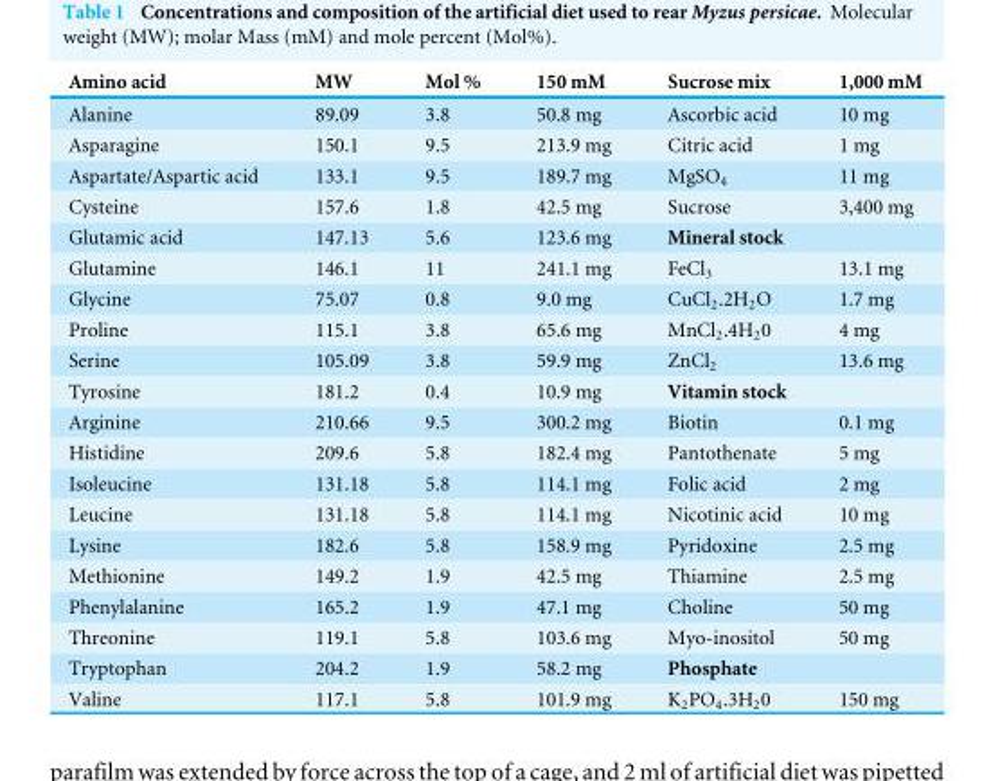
<table><thead><tr><td>Amino acid</td><td>MW</td><td>Mol %</td><td>150 mM</td><td>Sucrose mix</td><td>1,000 mM</td></tr></thead><tbody><tr><td>Alanine</td><td>89.09</td><td>3.8</td><td>50.8 mg</td><td>Ascorbic acid</td><td>10 mg</td></tr><tr><td>Asparagine</td><td>150.1</td><td>9.5</td><td>213.9 mg</td><td>Citric acid</td><td>1 mg</td></tr><tr><td>Aspartate/Aspartic acid</td><td>133.1</td><td>9.5</td><td>189.7 mg</td><td>MgSO<sub>4</sub></td><td>11 mg</td></tr><tr><td>Cysteine</td><td>157.6</td><td>1.8</td><td>42.5 mg</td><td>Sucrose</td><td>3,400 mg</td></tr><tr><td>Glutamic acid</td><td>147.13</td><td>5.6</td><td>123.6 mg</td><td>Mineral stock</td><td></td></tr><tr><td>Glutamine</td><td>146.1</td><td>11</td><td>241.1 mg</td><td>FeCl<sub>3</sub></td><td>13.1 mg</td></tr><tr><td>Glycine</td><td>75.07</td><td>0.8</td><td>9.0 mg</td><td>CuCl<sub>2</sub>.2H<sub>2</sub>O</td><td>1.7 mg</td></tr><tr><td>Proline</td><td>115.1</td><td>3.8</td><td>65.6 mg</td><td>MnCl<sub>2</sub>.4H<sub>2</sub>0</td><td>4 mg</td></tr><tr><td>Serine</td><td>105.09</td><td>3.8</td><td>59.9 mg</td><td>ZnCl<sub>2</sub></td><td>13.6 mg</td></tr><tr><td>Tyrosine</td><td>181.2</td><td>0.4</td><td>10.9 mg</td><td>Vitamin stock</td><td></td></tr><tr><td>Arginine</td><td>210.66</td><td>9.5</td><td>300.2 mg</td><td>Biotin</td><td>0.1 mg</td></tr><tr><td>Histidine</td><td>209.6</td><td>5.8</td><td>182.4 mg</td><td>Pantothenate</td><td>5 mg</td></tr><tr><td>Isoleucine</td><td>131.18</td><td>5.8</td><td>114.1 mg</td><td>Folic acid</td><td>2 mg</td></tr><tr><td>Leucine</td><td>131.18</td><td>5.8</td><td>114.1 mg</td><td>Nicotinic acid</td><td>10 mg</td></tr><tr><td>Lysine</td><td>182.6</td><td>5.8</td><td>158.9 mg</td><td>Pyridoxine</td><td>2.5 mg</td></tr><tr><td>Methionine</td><td>149.2</td><td>1.9</td><td>42.5 mg</td><td>Thiamine</td><td>2.5 mg</td></tr><tr><td>Phenylalanine</td><td>165.2</td><td>1.9</td><td>47.1 mg</td><td>Choline</td><td>50 mg</td></tr><tr><td>Threonine</td><td>119.1</td><td>5.8</td><td>103.6 mg</td><td>Myo-inositol</td><td>50 mg</td></tr><tr><td>Tryptophan</td><td>204.2</td><td>1.9</td><td>58.2 mg</td><td>Phosphate</td><td></td></tr><tr><td>Valine</td><td>117.1</td><td>5.8</td><td>101.9 mg</td><td>K<sub>2</sub>PO<sub>4</sub>.3H<sub>2</sub>0</td><td>150 mg</td></tr></tbody></table>